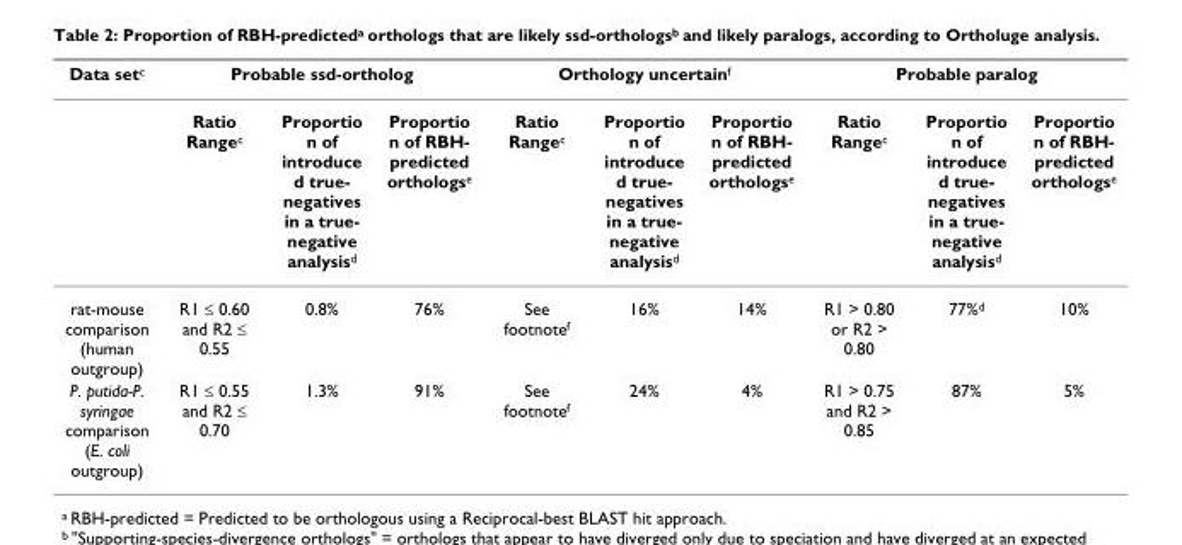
<table><thead><tr><td rowspan="2">Data setc</td><td colspan="3">Probable ssd-ortholog</td><td colspan="3">Orthology uncertainf</td><td colspan="3">Probable paralog</td></tr><tr><td>Ratio Rangec</td><td>Proportio n of introduce d true- negatives in a true- negative analysisd</td><td>Proportio n of RBH- predicted orthologse</td><td>Ratio Rangec</td><td>Proportio n of introduce d true- negatives in a true- negative analysisd</td><td>Proportio n of RBH- predicted orthologse</td><td>Ratio Rangec</td><td>Proportio n of introduce d true- negatives in a true- negative analysisd</td><td>Proportio n of RBH- predicted orthologse</td></tr></thead><tbody><tr><td>rat-mouse comparison (human outgroup)</td><td>R1 ≤ 0.60 and R2 ≤ 0.55</td><td>0.8%</td><td>76%</td><td>See footnotef</td><td>16%</td><td>14%</td><td>R1 &gt; 0.80 or R2 &gt; 0.80</td><td>77%d</td><td>10%</td></tr><tr><td>P. putida-P. syringae comparison (E. coli outgroup)</td><td>R1 ≤ 0.55 and R2 ≤ 0.70</td><td>1.3%</td><td>91%</td><td>See footnotef</td><td>24%</td><td>4%</td><td>R1 &gt; 0.75 and R2 &gt; 0.85</td><td>87%</td><td>5%</td></tr></tbody></table>